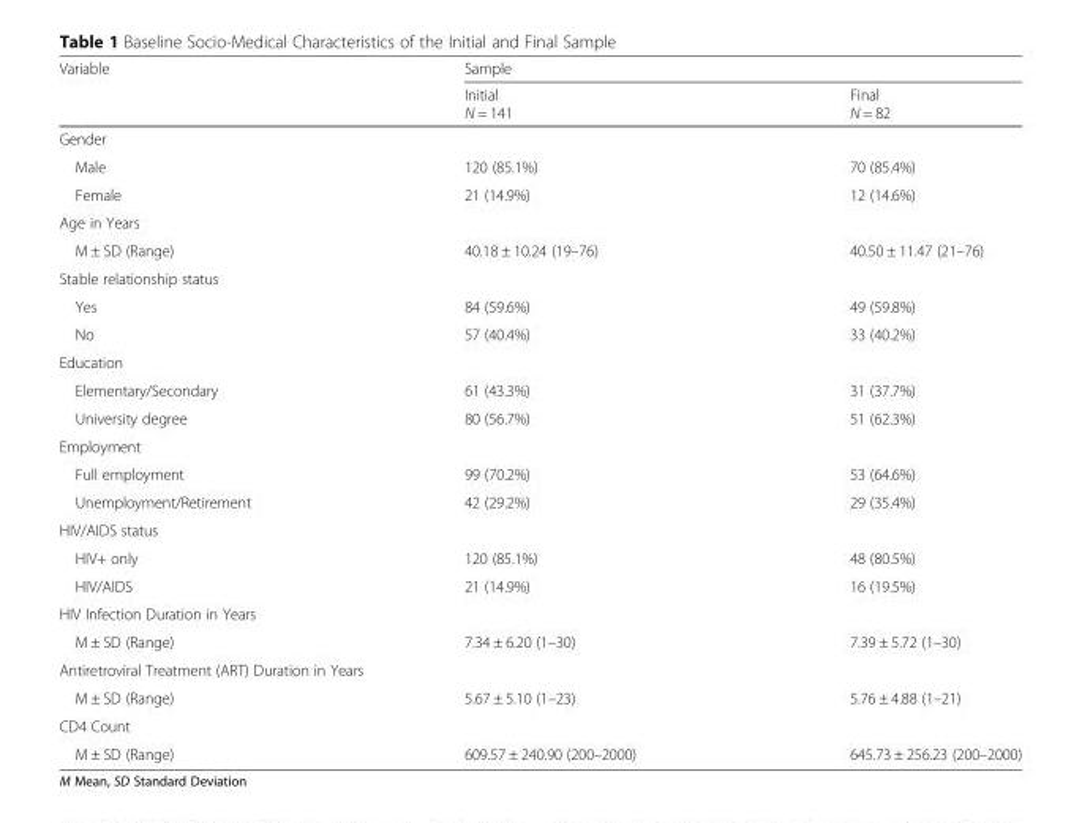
<table><thead><tr><td rowspan="2">Variable</td><td colspan="2">Sample</td></tr><tr><td>Initial N = 141</td><td>Final N = 82</td></tr></thead><tbody><tr><td colspan="3">Gender</td></tr><tr><td>Male</td><td>120 (85.1%)</td><td>70 (85.4%)</td></tr><tr><td>Female</td><td>21 (14.9%)</td><td>12 (14.6%)</td></tr><tr><td colspan="3">Age in Years</td></tr><tr><td>M ± SD (Range)</td><td>40.18 ± 10.24 (19–76)</td><td>40.50 ± 11.47 (21–76)</td></tr><tr><td colspan="3">Stable relationship status</td></tr><tr><td>Yes</td><td>84 (59.6%)</td><td>49 (59.8%)</td></tr><tr><td>No</td><td>57 (40.4%)</td><td>33 (40.2%)</td></tr><tr><td colspan="3">Education</td></tr><tr><td>Elementary/Secondary</td><td>61 (43.3%)</td><td>31 (37.7%)</td></tr><tr><td>University degree</td><td>80 (56.7%)</td><td>51 (62.3%)</td></tr><tr><td colspan="3">Employment</td></tr><tr><td>Full employment</td><td>99 (70.2%)</td><td>53 (64.6%)</td></tr><tr><td>Unemployment/Retirement</td><td>42 (29.2%)</td><td>29 (35.4%)</td></tr><tr><td colspan="3">HIV/AIDS status</td></tr><tr><td>HIV+ only</td><td>120 (85.1%)</td><td>48 (80.5%)</td></tr><tr><td>HIV/AIDS</td><td>21 (14.9%)</td><td>16 (19.5%)</td></tr><tr><td colspan="3">HIV Infection Duration in Years</td></tr><tr><td>M ± SD (Range)</td><td>7.34 ± 6.20 (1–30)</td><td>7.39 ± 5.72 (1–30)</td></tr><tr><td colspan="3">Antiretroviral Treatment (ART) Duration in Years</td></tr><tr><td>M ± SD (Range)</td><td>5.67 ± 5.10 (1–23)</td><td>5.76 ± 4.88 (1–21)</td></tr><tr><td colspan="3">CD4 Count</td></tr><tr><td>M ± SD (Range)</td><td>609.57 ± 240.90 (200–2000)</td><td>645.73 ± 256.23 (200–2000)</td></tr></tbody></table>